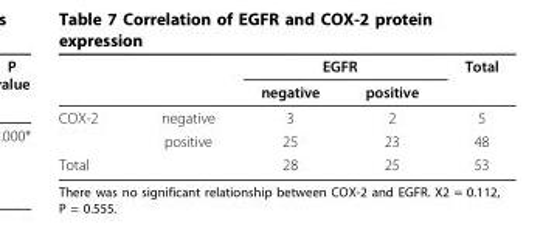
<table><thead><tr><td rowspan="2"></td><td rowspan="2"></td><td colspan="2">EGFR</td><td rowspan="2">Total</td></tr><tr><td>negative</td><td>positive</td></tr></thead><tbody><tr><td rowspan="2">COX-2</td><td>negative</td><td>3</td><td>2</td><td>5</td></tr><tr><td>positive</td><td>25</td><td>23</td><td>48</td></tr><tr><td colspan="2">Total</td><td>28</td><td>25</td><td>53</td></tr></tbody></table>